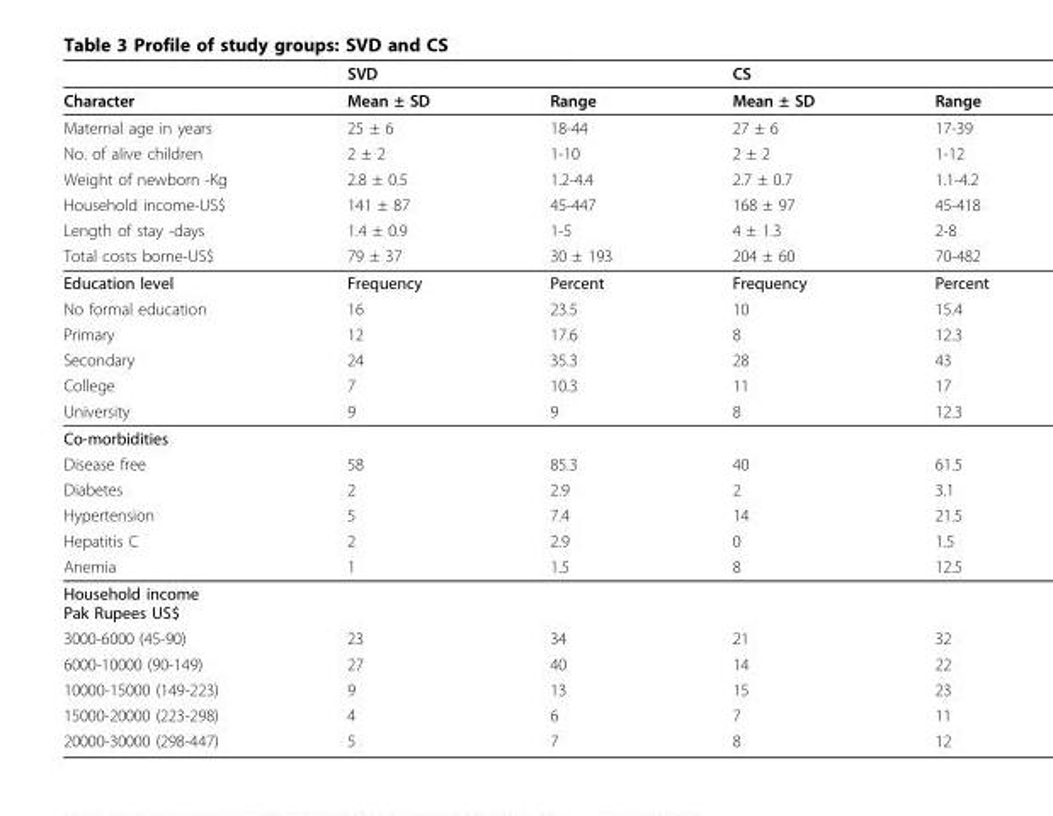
<table><thead><tr><td></td><td>SVD</td><td></td><td>CS</td><td></td></tr></thead><tbody><tr><td>Character</td><td>Mean ± SD</td><td>Range</td><td>Mean ± SD</td><td>Range</td></tr><tr><td>Maternal age in years</td><td>25 ± 6</td><td>18-44</td><td>27 ± 6</td><td>17-39</td></tr><tr><td>No. of alive children</td><td>2 ± 2</td><td>1-10</td><td>2 ± 2</td><td>1-12</td></tr><tr><td>Weight of newborn -Kg</td><td>2.8 ± 0.5</td><td>1.2-4.4</td><td>2.7 ± 0.7</td><td>1.1-4.2</td></tr><tr><td>Household income-US$</td><td>141 ± 87</td><td>45-447</td><td>168 ± 97</td><td>45-418</td></tr><tr><td>Length of stay -days</td><td>1.4 ± 0.9</td><td>1-5</td><td>4 ± 1.3</td><td>2-8</td></tr><tr><td>Total costs borne-US$</td><td>79 ± 37</td><td>30 ± 193</td><td>204 ± 60</td><td>70-482</td></tr><tr><td>Education level</td><td>Frequency</td><td>Percent</td><td>Frequency</td><td>Percent</td></tr><tr><td>No formal education</td><td>16</td><td>23.5</td><td>10</td><td>15.4</td></tr><tr><td>Primary</td><td>12</td><td>17.6</td><td>8</td><td>12.3</td></tr><tr><td>Secondary</td><td>24</td><td>35.3</td><td>28</td><td>43</td></tr><tr><td>College</td><td>7</td><td>10.3</td><td>11</td><td>17</td></tr><tr><td>University</td><td>9</td><td>9</td><td>8</td><td>12.3</td></tr><tr><td colspan="5">Co-morbidities</td></tr><tr><td>Disease free</td><td>58</td><td>85.3</td><td>40</td><td>61.5</td></tr><tr><td>Diabetes</td><td>2</td><td>2.9</td><td>2</td><td>3.1</td></tr><tr><td>Hypertension</td><td>5</td><td>7.4</td><td>14</td><td>21.5</td></tr><tr><td>Hepatitis C</td><td>2</td><td>2.9</td><td>0</td><td>1.5</td></tr><tr><td>Anemia</td><td>1</td><td>1.5</td><td>8</td><td>12.5</td></tr><tr><td colspan="5">Household income Pak Rupees US$</td></tr><tr><td>3000-6000 (45-90)</td><td>23</td><td>34</td><td>21</td><td>32</td></tr><tr><td>6000-10000 (90-149)</td><td>27</td><td>40</td><td>14</td><td>22</td></tr><tr><td>10000-15000 (149-223)</td><td>9</td><td>13</td><td>15</td><td>23</td></tr><tr><td>15000-20000 (223-298)</td><td>4</td><td>6</td><td>7</td><td>11</td></tr><tr><td>20000-30000 (298-447)</td><td>5</td><td>7</td><td>8</td><td>12</td></tr></tbody></table>